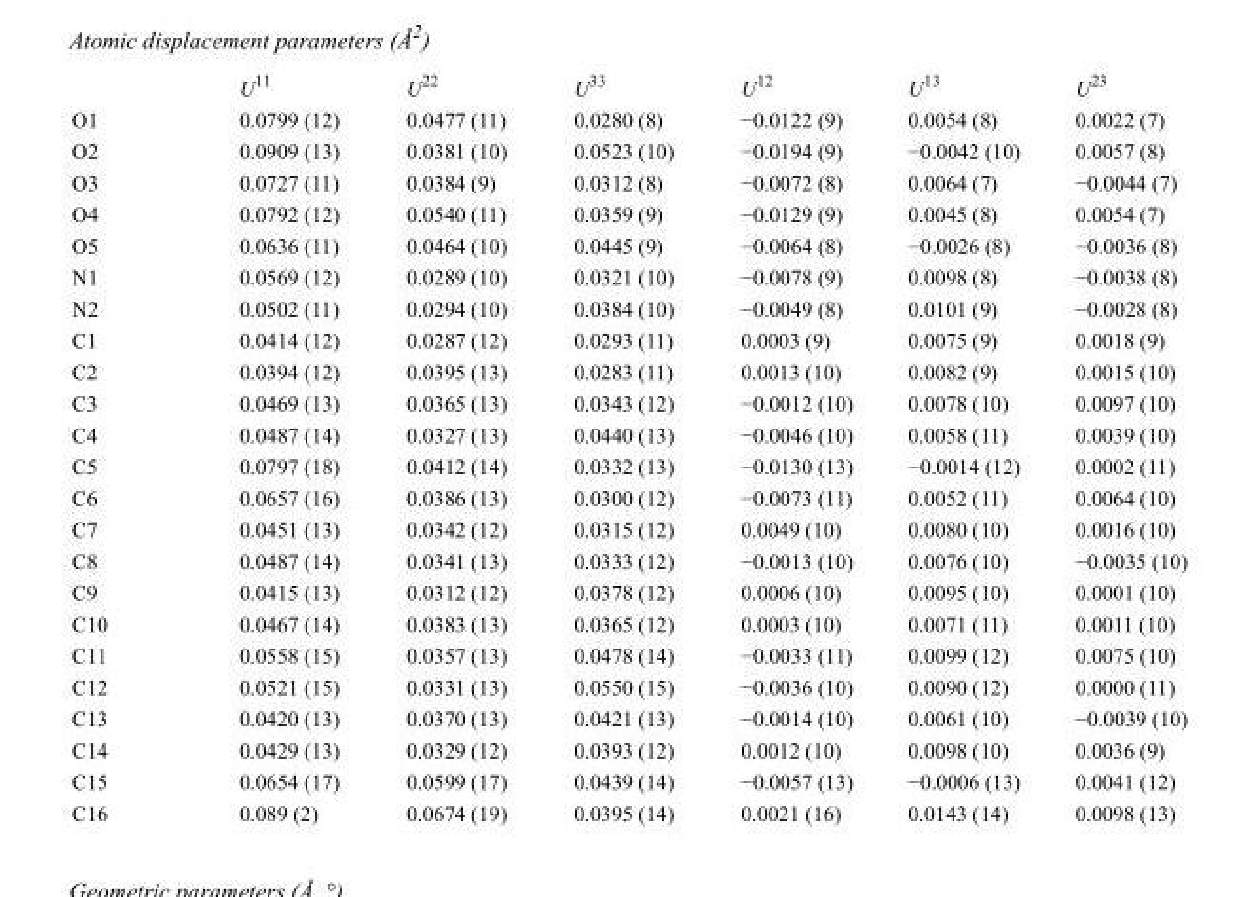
<table><thead><tr><td></td><td>U<sup>11</sup></td><td>U<sup>22</sup></td><td>U<sup>33</sup></td><td>U<sup>12</sup></td><td>U<sup>13</sup></td><td>U<sup>23</sup></td></tr></thead><tbody><tr><td>O1</td><td>0.0799 (12)</td><td>0.0477 (11)</td><td>0.0280 (8)</td><td>−0.0122 (9)</td><td>0.0054 (8)</td><td>0.0022 (7)</td></tr><tr><td>O2</td><td>0.0909 (13)</td><td>0.0381 (10)</td><td>0.0523 (10)</td><td>−0.0194 (9)</td><td>−0.0042 (10)</td><td>0.0057 (8)</td></tr><tr><td>O3</td><td>0.0727 (11)</td><td>0.0384 (9)</td><td>0.0312 (8)</td><td>−0.0072 (8)</td><td>0.0064 (7)</td><td>−0.0044 (7)</td></tr><tr><td>O4</td><td>0.0792 (12)</td><td>0.0540 (11)</td><td>0.0359 (9)</td><td>−0.0129 (9)</td><td>0.0045 (8)</td><td>0.0054 (7)</td></tr><tr><td>O5</td><td>0.0636 (11)</td><td>0.0464 (10)</td><td>0.0445 (9)</td><td>−0.0064 (8)</td><td>−0.0026 (8)</td><td>−0.0036 (8)</td></tr><tr><td>N1</td><td>0.0569 (12)</td><td>0.0289 (10)</td><td>0.0321 (10)</td><td>−0.0078 (9)</td><td>0.0098 (8)</td><td>−0.0038 (8)</td></tr><tr><td>N2</td><td>0.0502 (11)</td><td>0.0294 (10)</td><td>0.0384 (10)</td><td>−0.0049 (8)</td><td>0.0101 (9)</td><td>−0.0028 (8)</td></tr><tr><td>C1</td><td>0.0414 (12)</td><td>0.0287 (12)</td><td>0.0293 (11)</td><td>0.0003 (9)</td><td>0.0075 (9)</td><td>0.0018 (9)</td></tr><tr><td>C2</td><td>0.0394 (12)</td><td>0.0395 (13)</td><td>0.0283 (11)</td><td>0.0013 (10)</td><td>0.0082 (9)</td><td>0.0015 (10)</td></tr><tr><td>C3</td><td>0.0469 (13)</td><td>0.0365 (13)</td><td>0.0343 (12)</td><td>−0.0012 (10)</td><td>0.0078 (10)</td><td>0.0097 (10)</td></tr><tr><td>C4</td><td>0.0487 (14)</td><td>0.0327 (13)</td><td>0.0440 (13)</td><td>−0.0046 (10)</td><td>0.0058 (11)</td><td>0.0039 (10)</td></tr><tr><td>C5</td><td>0.0797 (18)</td><td>0.0412 (14)</td><td>0.0332 (13)</td><td>−0.0130 (13)</td><td>−0.0014 (12)</td><td>0.0002 (11)</td></tr><tr><td>C6</td><td>0.0657 (16)</td><td>0.0386 (13)</td><td>0.0300 (12)</td><td>−0.0073 (11)</td><td>0.0052 (11)</td><td>0.0064 (10)</td></tr><tr><td>C7</td><td>0.0451 (13)</td><td>0.0342 (12)</td><td>0.0315 (12)</td><td>0.0049 (10)</td><td>0.0080 (10)</td><td>0.0016 (10)</td></tr><tr><td>C8</td><td>0.0487 (14)</td><td>0.0341 (13)</td><td>0.0333 (12)</td><td>−0.0013 (10)</td><td>0.0076 (10)</td><td>−0.0035 (10)</td></tr><tr><td>C9</td><td>0.0415 (13)</td><td>0.0312 (12)</td><td>0.0378 (12)</td><td>0.0006 (10)</td><td>0.0095 (10)</td><td>0.0001 (10)</td></tr><tr><td>C10</td><td>0.0467 (14)</td><td>0.0383 (13)</td><td>0.0365 (12)</td><td>0.0003 (10)</td><td>0.0071 (11)</td><td>0.0011 (10)</td></tr><tr><td>C11</td><td>0.0558 (15)</td><td>0.0357 (13)</td><td>0.0478 (14)</td><td>−0.0033 (11)</td><td>0.0099 (12)</td><td>0.0075 (10)</td></tr><tr><td>C12</td><td>0.0521 (15)</td><td>0.0331 (13)</td><td>0.0550 (15)</td><td>−0.0036 (10)</td><td>0.0090 (12)</td><td>0.0000 (11)</td></tr><tr><td>C13</td><td>0.0420 (13)</td><td>0.0370 (13)</td><td>0.0421 (13)</td><td>−0.0014 (10)</td><td>0.0061 (10)</td><td>−0.0039 (10)</td></tr><tr><td>C14</td><td>0.0429 (13)</td><td>0.0329 (12)</td><td>0.0393 (12)</td><td>0.0012 (10)</td><td>0.0098 (10)</td><td>0.0036 (9)</td></tr><tr><td>C15</td><td>0.0654 (17)</td><td>0.0599 (17)</td><td>0.0439 (14)</td><td>−0.0057 (13)</td><td>−0.0006 (13)</td><td>0.0041 (12)</td></tr><tr><td>C16</td><td>0.089 (2)</td><td>0.0674 (19)</td><td>0.0395 (14)</td><td>0.0021 (16)</td><td>0.0143 (14)</td><td>0.0098 (13)</td></tr></tbody></table>